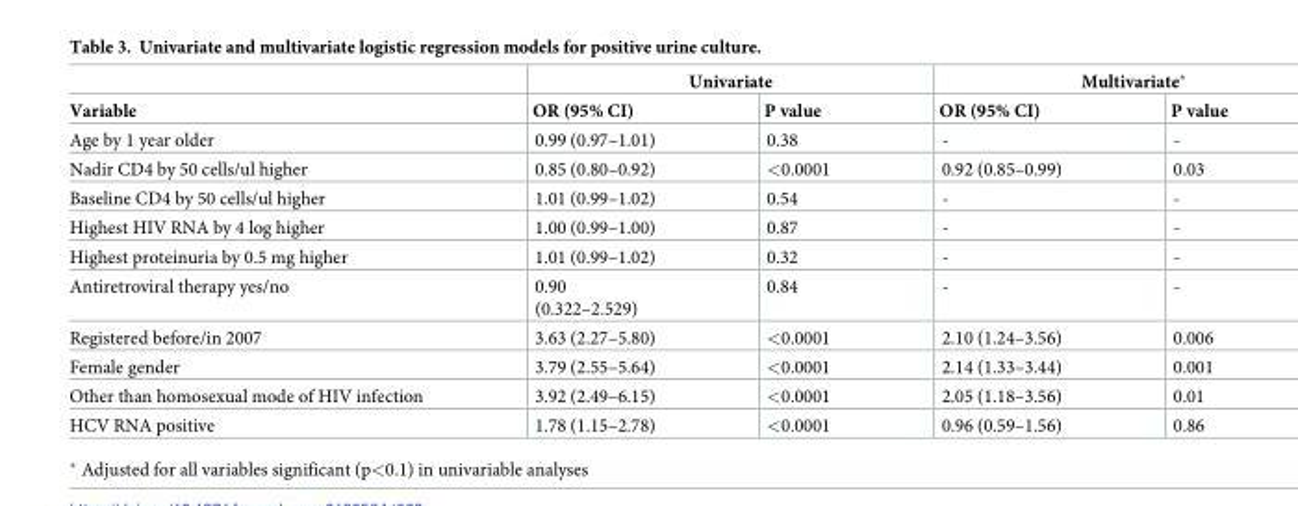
<table><thead><tr><td rowspan="2">Variable</td><td colspan="2">Univariate</td><td colspan="2">Multivariate*</td></tr><tr><td>OR (95% CI)</td><td>P value</td><td>OR (95% CI)</td><td>P value</td></tr></thead><tbody><tr><td>Age by 1 year older</td><td>0.99 (0.97–1.01)</td><td>0.38</td><td>-</td><td>-</td></tr><tr><td>Nadir CD4 by 50 cells/ul higher</td><td>0.85 (0.80–0.92)</td><td>&lt;0.0001</td><td>0.92 (0.85–0.99)</td><td>0.03</td></tr><tr><td>Baseline CD4 by 50 cells/ul higher</td><td>1.01 (0.99–1.02)</td><td>0.54</td><td>-</td><td>-</td></tr><tr><td>Highest HIV RNA by 4 log higher</td><td>1.00 (0.99–1.00)</td><td>0.87</td><td>-</td><td>-</td></tr><tr><td>Highest proteinuria by 0.5 mg higher</td><td>1.01 (0.99–1.02)</td><td>0.32</td><td>-</td><td>-</td></tr><tr><td>Antiretroviral therapy yes/no</td><td>0.90 (0.322–2.529)</td><td>0.84</td><td>-</td><td>-</td></tr><tr><td>Registered before/in 2007</td><td>3.63 (2.27–5.80)</td><td>&lt;0.0001</td><td>2.10 (1.24–3.56)</td><td>0.006</td></tr><tr><td>Female gender</td><td>3.79 (2.55–5.64)</td><td>&lt;0.0001</td><td>2.14 (1.33–3.44)</td><td>0.001</td></tr><tr><td>Other than homosexual mode of HIV infection</td><td>3.92 (2.49–6.15)</td><td>&lt;0.0001</td><td>2.05 (1.18–3.56)</td><td>0.01</td></tr><tr><td>HCV RNA positive</td><td>1.78 (1.15–2.78)</td><td>&lt;0.0001</td><td>0.96 (0.59–1.56)</td><td>0.86</td></tr></tbody></table>